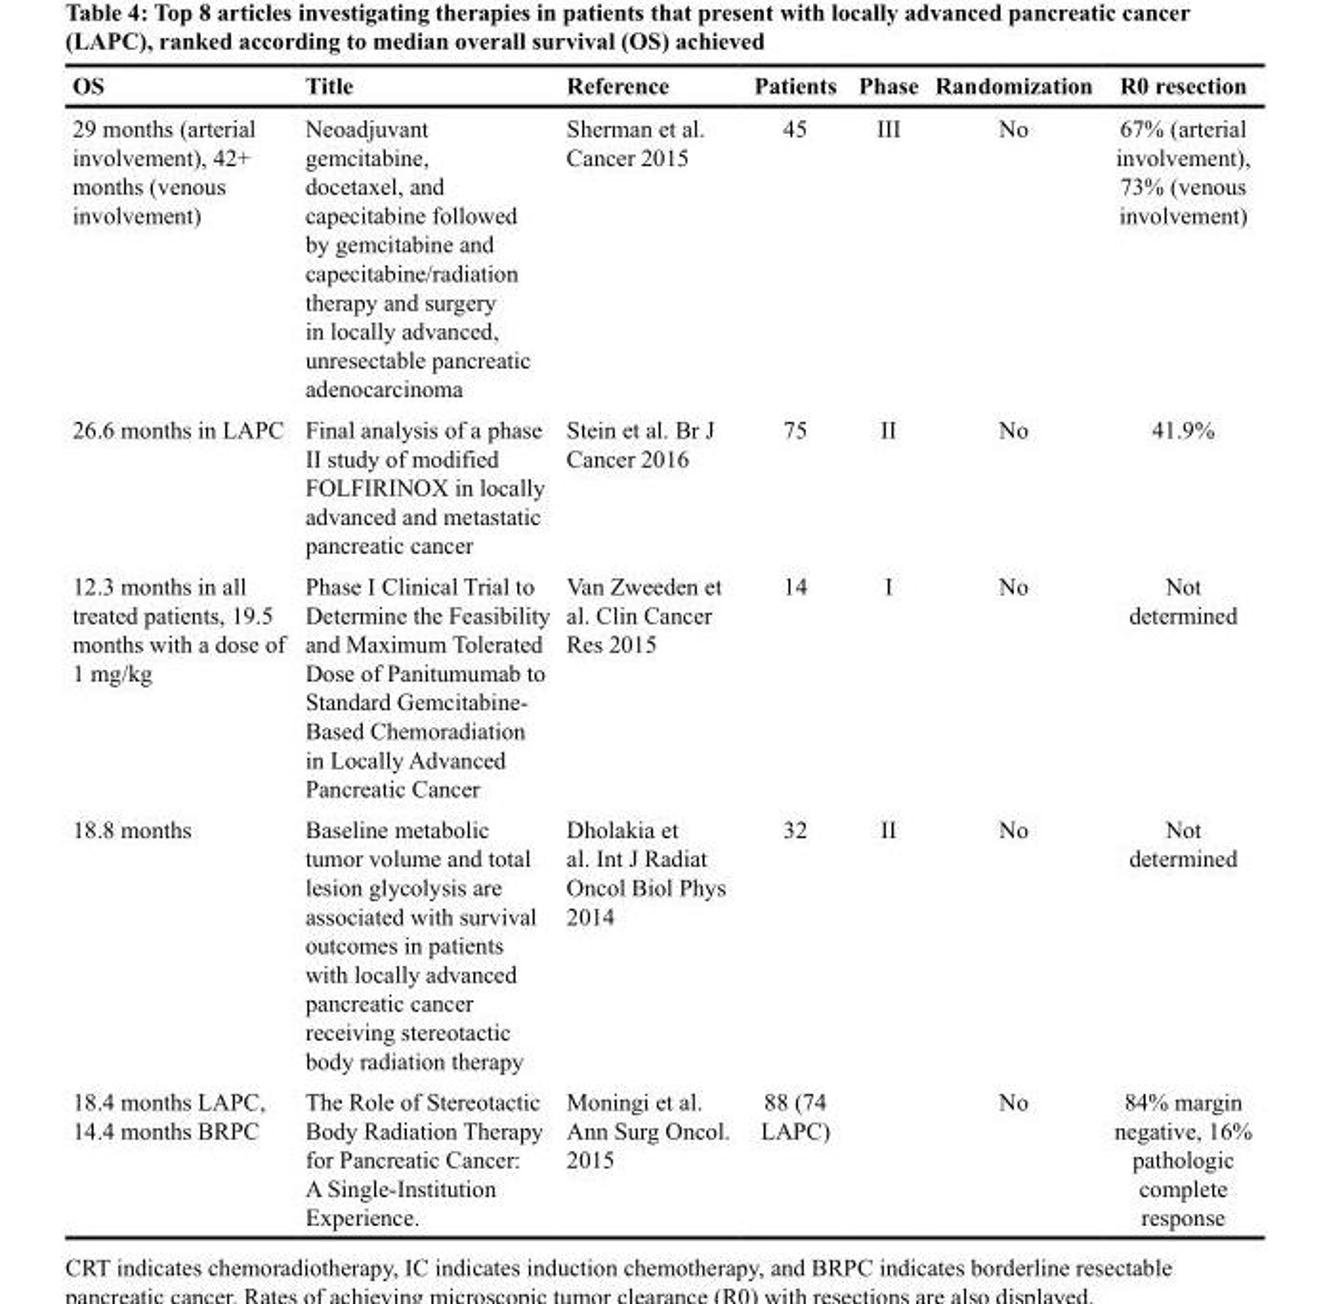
<table><thead><tr><td>OS</td><td>Title</td><td>Reference</td><td>Patients</td><td>Phase</td><td>Randomization</td><td>R0 resection</td></tr></thead><tbody><tr><td>29 months (arterial involvement), 42+ months (venous involvement)</td><td>Neoadjuvant gemcitabine, docetaxel, and capecitabine followed by gemcitabine and capecitabine/radiation therapy and surgery in locally advanced, unresectable pancreatic adenocarcinoma</td><td>Sherman et al. Cancer 2015</td><td>45</td><td>III</td><td>No</td><td>67% (arterial involvement), 73% (venous involvement)</td></tr><tr><td>26.6 months in LAPC</td><td>Final analysis of a phase II study of modified FOLFIRINOX in locally advanced and metastatic pancreatic cancer</td><td>Stein et al. Br J Cancer 2016</td><td>75</td><td>II</td><td>No</td><td>41.9%</td></tr><tr><td>12.3 months in all treated patients, 19.5 months with a dose of 1 mg/kg</td><td>Phase I Clinical Trial to Determine the Feasibility and Maximum Tolerated Dose of Panitumumab to Standard Gemcitabine- Based Chemoradiation in Locally Advanced Pancreatic Cancer</td><td>Van Zweeden et al. Clin Cancer Res 2015</td><td>14</td><td>I</td><td>No</td><td>Not determined</td></tr><tr><td>18.8 months</td><td>Baseline metabolic tumor volume and total lesion glycolysis are associated with survival outcomes in patients with locally advanced pancreatic cancer receiving stereotactic body radiation therapy</td><td>Dholakia et al. Int J Radiat Oncol Biol Phys 2014</td><td>32</td><td>II</td><td>No</td><td>Not determined</td></tr><tr><td>18.4 months LAPC, 14.4 months BRPC</td><td>The Role of Stereotactic Body Radiation Therapy for Pancreatic Cancer: A Single-Institution Experience.</td><td>Moningi et al. Ann Surg Oncol. 2015</td><td>88 (74 LAPC)</td><td></td><td>No</td><td>84% margin negative, 16% pathologic complete response</td></tr></tbody></table>